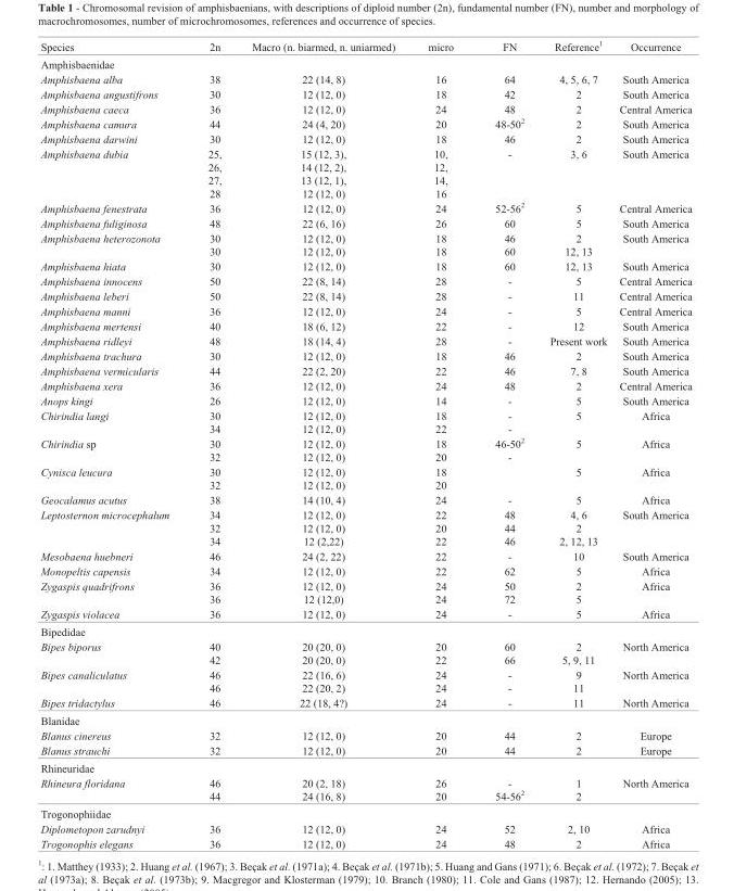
<table><thead><tr><td>Species</td><td>2n</td><td>Macro (n. biarmed, n. uniarmed)</td><td>micro</td><td>FN</td><td>Reference<sup>1</sup></td><td>Occurrence</td></tr></thead><tbody><tr><td colspan="7">Amphisbaenidae</td></tr><tr><td>Amphisbaena alba</td><td>38</td><td>22 (14, 8)</td><td>16</td><td>64</td><td>4, 5, 6, 7</td><td>South America</td></tr><tr><td>Amphisbaena angustifrons</td><td>30</td><td>12 (12, 0)</td><td>18</td><td>42</td><td>2</td><td>South America</td></tr><tr><td>Amphisbaena caeca</td><td>36</td><td>12 (12, 0)</td><td>24</td><td>48</td><td>2</td><td>Central America</td></tr><tr><td>Amphisbaena camura</td><td>44</td><td>24 (4, 20)</td><td>20</td><td>48-50<sup>2</sup></td><td>2</td><td>South America</td></tr><tr><td>Amphisbaena darwini</td><td>30</td><td>12 (12, 0)</td><td>18</td><td>46</td><td>2</td><td>South America</td></tr><tr><td>Amphisbaena dubia</td><td>25, 26, 27, 28</td><td>15 (12, 3), 14 (12, 2), 13 (12, 1), 12 (12, 0)</td><td>10, 12, 14, 16</td><td>-</td><td>3, 6</td><td>South America</td></tr><tr><td>Amphisbaena fenestrata</td><td>36</td><td>12 (12, 0)</td><td>24</td><td>52-56<sup>2</sup></td><td>5</td><td>Central America</td></tr><tr><td>Amphisbaena fuliginosa</td><td>48</td><td>22 (6, 16)</td><td>26</td><td>60</td><td>5</td><td>South America</td></tr><tr><td>Amphisbaena heterozonota</td><td>30 30</td><td>12 (12, 0) 12 (12, 0)</td><td>18 18</td><td>46 60</td><td>2 12, 13</td><td>South America</td></tr><tr><td>Amphisbaena hiata</td><td>30</td><td>12 (12, 0)</td><td>18</td><td>60</td><td>12, 13</td><td>South America</td></tr><tr><td>Amphisbaena innocens</td><td>50</td><td>22 (8, 14)</td><td>28</td><td>-</td><td>5</td><td>Central America</td></tr><tr><td>Amphisbaena leberi</td><td>50</td><td>22 (8, 14)</td><td>28</td><td>-</td><td>11</td><td>Central America</td></tr><tr><td>Amphisbaena manni</td><td>36</td><td>12 (12, 0)</td><td>24</td><td>-</td><td>5</td><td>Central America</td></tr><tr><td>Amphisbaena mertensi</td><td>40</td><td>18 (6, 12)</td><td>22</td><td>-</td><td>12</td><td>South America</td></tr><tr><td>Amphisbaena ridleyi</td><td>48</td><td>18 (14, 4)</td><td>28</td><td>-</td><td>Present work</td><td>South America</td></tr><tr><td>Amphisbaena trachura</td><td>30</td><td>12 (12, 0)</td><td>18</td><td>46</td><td>2</td><td>South America</td></tr><tr><td>Amphisbaena vermicularis</td><td>44</td><td>22 (2, 20)</td><td>22</td><td>46</td><td>7, 8</td><td>South America</td></tr><tr><td>Amphisbaena xera</td><td>36</td><td>12 (12, 0)</td><td>24</td><td>48</td><td>2</td><td>Central America</td></tr><tr><td>Anops kingi</td><td>26</td><td>12 (12, 0)</td><td>14</td><td>-</td><td>5</td><td>South America</td></tr><tr><td>Chirindia langi</td><td>30 34</td><td>12 (12, 0) 12 (12, 0)</td><td>18 22</td><td>- -</td><td>5</td><td>Africa</td></tr><tr><td>Chirindia sp</td><td>30 32</td><td>12 (12, 0) 12 (12, 0)</td><td>18 20</td><td>46-50<sup>2</sup> -</td><td>5</td><td>Africa</td></tr><tr><td>Cynisca leucura</td><td>30 32</td><td>12 (12, 0) 12 (12, 0)</td><td>18 20</td><td></td><td>5</td><td>Africa</td></tr><tr><td>Geocalamus acutus</td><td>38</td><td>14 (10, 4)</td><td>24</td><td>-</td><td>5</td><td>Africa</td></tr><tr><td>Leptosternon microcephalum</td><td>34 32 34</td><td>12 (12, 0) 12 (12, 0) 12 (2,22)</td><td>22 20 22</td><td>48 44 46</td><td>4, 6 2 2, 12, 13</td><td>South America</td></tr><tr><td>Mesobaena huebneri</td><td>46</td><td>24 (2, 22)</td><td>22</td><td>-</td><td>10</td><td>South America</td></tr><tr><td>Monopeltis capensis</td><td>34</td><td>12 (12, 0)</td><td>22</td><td>62</td><td>5</td><td>Africa</td></tr><tr><td>Zygaspis quadrifrons</td><td>36 36</td><td>12 (12, 0) 12 (12,0)</td><td>24 24</td><td>50 72</td><td>2 5</td><td>Africa</td></tr><tr><td>Zygaspis violacea</td><td>36</td><td>12 (12, 0)</td><td>24</td><td>-</td><td>5</td><td>Africa</td></tr><tr><td colspan="7">Bipedidae</td></tr><tr><td>Bipes biporus</td><td>40 42</td><td>20 (20, 0) 20 (20, 0)</td><td>20 22</td><td>60 66</td><td>2 5, 9, 11</td><td>North America</td></tr><tr><td>Bipes canaliculatus</td><td>46 46</td><td>22 (16, 6) 22 (20, 2)</td><td>24 24</td><td>- -</td><td>9 11</td><td>North America</td></tr><tr><td>Bipes tridactylus</td><td>46</td><td>22 (18, 4?)</td><td>24</td><td>-</td><td>11</td><td>North America</td></tr><tr><td colspan="7">Blanidae</td></tr><tr><td>Blanus cinereus</td><td>32</td><td>12 (12, 0)</td><td>20</td><td>44</td><td>2</td><td>Europe</td></tr><tr><td>Blanus strauchi</td><td>32</td><td>12 (12, 0)</td><td>20</td><td>44</td><td>2</td><td>Europe</td></tr><tr><td colspan="7">Rhineuridae</td></tr><tr><td>Rhineura floridana</td><td>46 44</td><td>20 (2, 18) 24 (16, 8)</td><td>26 20</td><td>- 54-56<sup>2</sup></td><td>1 2</td><td>North America</td></tr><tr><td colspan="7">Trogonophiidae</td></tr><tr><td>Diplometopon zarudnyi</td><td>36</td><td>12 (12, 0)</td><td>24</td><td>52</td><td>2, 10</td><td>Africa</td></tr><tr><td>Trogonophis elegans</td><td>36</td><td>12 (12, 0)</td><td>24</td><td>48</td><td>2</td><td>Africa</td></tr></tbody></table>